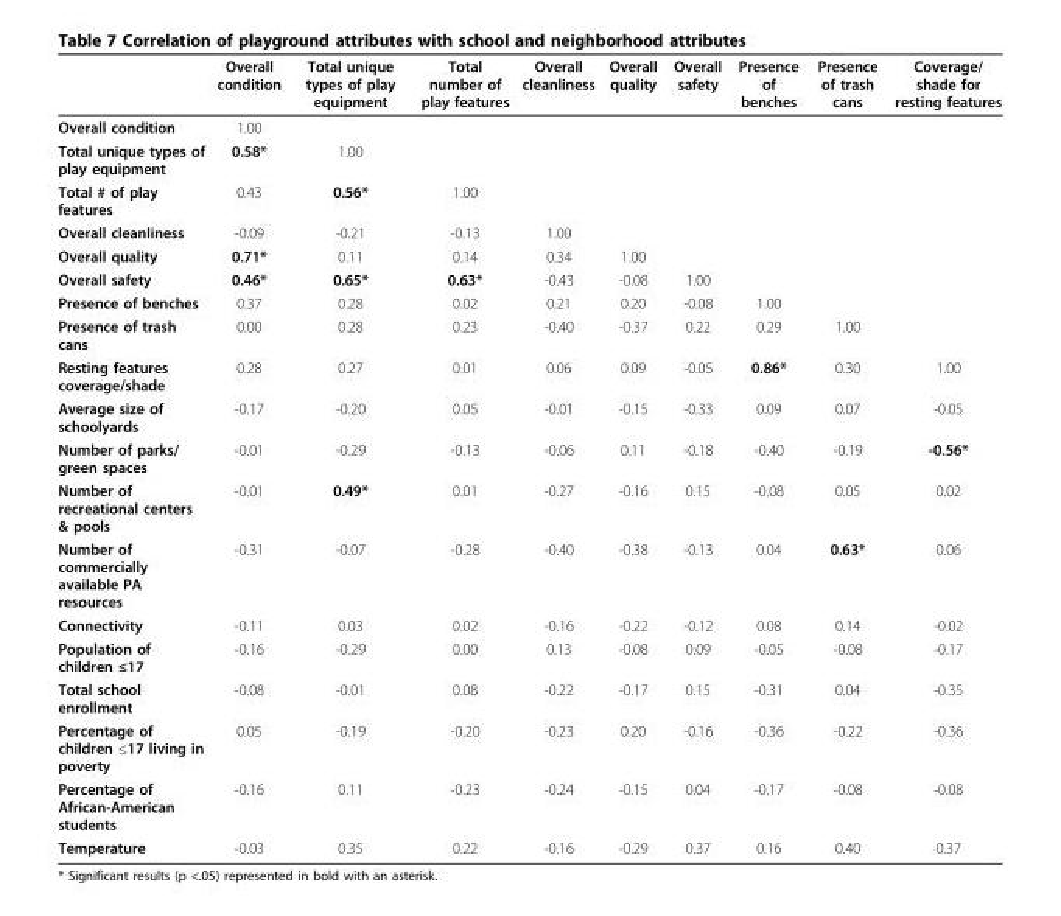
<table><thead><tr><td></td><td>Overall condition</td><td>Total unique types of play equipment</td><td>Total number of play features</td><td>Overall cleanliness</td><td>Overall quality</td><td>Overall safety</td><td>Presence of benches</td><td>Presence of trash cans</td><td>Coverage/ shade for resting features</td></tr></thead><tbody><tr><td>Overall condition</td><td>1.00</td><td></td><td></td><td></td><td></td><td></td><td></td><td></td><td></td></tr><tr><td>Total unique types of play equipment</td><td>0.58*</td><td>1.00</td><td></td><td></td><td></td><td></td><td></td><td></td><td></td></tr><tr><td>Total # of play features</td><td>0.43</td><td>0.56*</td><td>1.00</td><td></td><td></td><td></td><td></td><td></td><td></td></tr><tr><td>Overall cleanliness</td><td>-0.09</td><td>-0.21</td><td>-0.13</td><td>1.00</td><td></td><td></td><td></td><td></td><td></td></tr><tr><td>Overall quality</td><td>0.71*</td><td>0.11</td><td>0.14</td><td>0.34</td><td>1.00</td><td></td><td></td><td></td><td></td></tr><tr><td>Overall safety</td><td>0.46*</td><td>0.65*</td><td>0.63*</td><td>-0.43</td><td>-0.08</td><td>1.00</td><td></td><td></td><td></td></tr><tr><td>Presence of benches</td><td>0.37</td><td>0.28</td><td>0.02</td><td>0.21</td><td>0.20</td><td>-0.08</td><td>1.00</td><td></td><td></td></tr><tr><td>Presence of trash cans</td><td>0.00</td><td>0.28</td><td>0.23</td><td>-0.40</td><td>-0.37</td><td>0.22</td><td>0.29</td><td>1.00</td><td></td></tr><tr><td>Resting features coverage/shade</td><td>0.28</td><td>0.27</td><td>0.01</td><td>0.06</td><td>0.09</td><td>-0.05</td><td>0.86*</td><td>0.30</td><td>1.00</td></tr><tr><td>Average size of schoolyards</td><td>-0.17</td><td>-0.20</td><td>0.05</td><td>-0.01</td><td>-0.15</td><td>-0.33</td><td>0.09</td><td>0.07</td><td>-0.05</td></tr><tr><td>Number of parks/ green spaces</td><td>-0.01</td><td>-0.29</td><td>-0.13</td><td>-0.06</td><td>0.11</td><td>-0.18</td><td>-0.40</td><td>-0.19</td><td>-0.56*</td></tr><tr><td>Number of recreational centers &amp; pools</td><td>-0.01</td><td>0.49*</td><td>0.01</td><td>-0.27</td><td>-0.16</td><td>0.15</td><td>-0.08</td><td>0.05</td><td>0.02</td></tr><tr><td>Number of commercially available PA resources</td><td>-0.31</td><td>-0.07</td><td>-0.28</td><td>-0.40</td><td>-0.38</td><td>-0.13</td><td>0.04</td><td>0.63*</td><td>0.06</td></tr><tr><td>Connectivity</td><td>-0.11</td><td>0.03</td><td>0.02</td><td>-0.16</td><td>-0.22</td><td>-0.12</td><td>0.08</td><td>0.14</td><td>-0.02</td></tr><tr><td>Population of children ≤17</td><td>-0.16</td><td>-0.29</td><td>0.00</td><td>0.13</td><td>-0.08</td><td>0.09</td><td>-0.05</td><td>-0.08</td><td>-0.17</td></tr><tr><td>Total school enrollment</td><td>-0.08</td><td>-0.01</td><td>0.08</td><td>-0.22</td><td>-0.17</td><td>0.15</td><td>-0.31</td><td>0.04</td><td>-0.35</td></tr><tr><td>Percentage of children ≤17 living in poverty</td><td>0.05</td><td>-0.19</td><td>-0.20</td><td>-0.23</td><td>0.20</td><td>-0.16</td><td>-0.36</td><td>-0.22</td><td>-0.36</td></tr><tr><td>Percentage of African-American students</td><td>-0.16</td><td>0.11</td><td>-0.23</td><td>-0.24</td><td>-0.15</td><td>0.04</td><td>-0.17</td><td>-0.08</td><td>-0.08</td></tr><tr><td>Temperature</td><td>-0.03</td><td>0.35</td><td>0.22</td><td>-0.16</td><td>-0.29</td><td>0.37</td><td>0.16</td><td>0.40</td><td>0.37</td></tr></tbody></table>